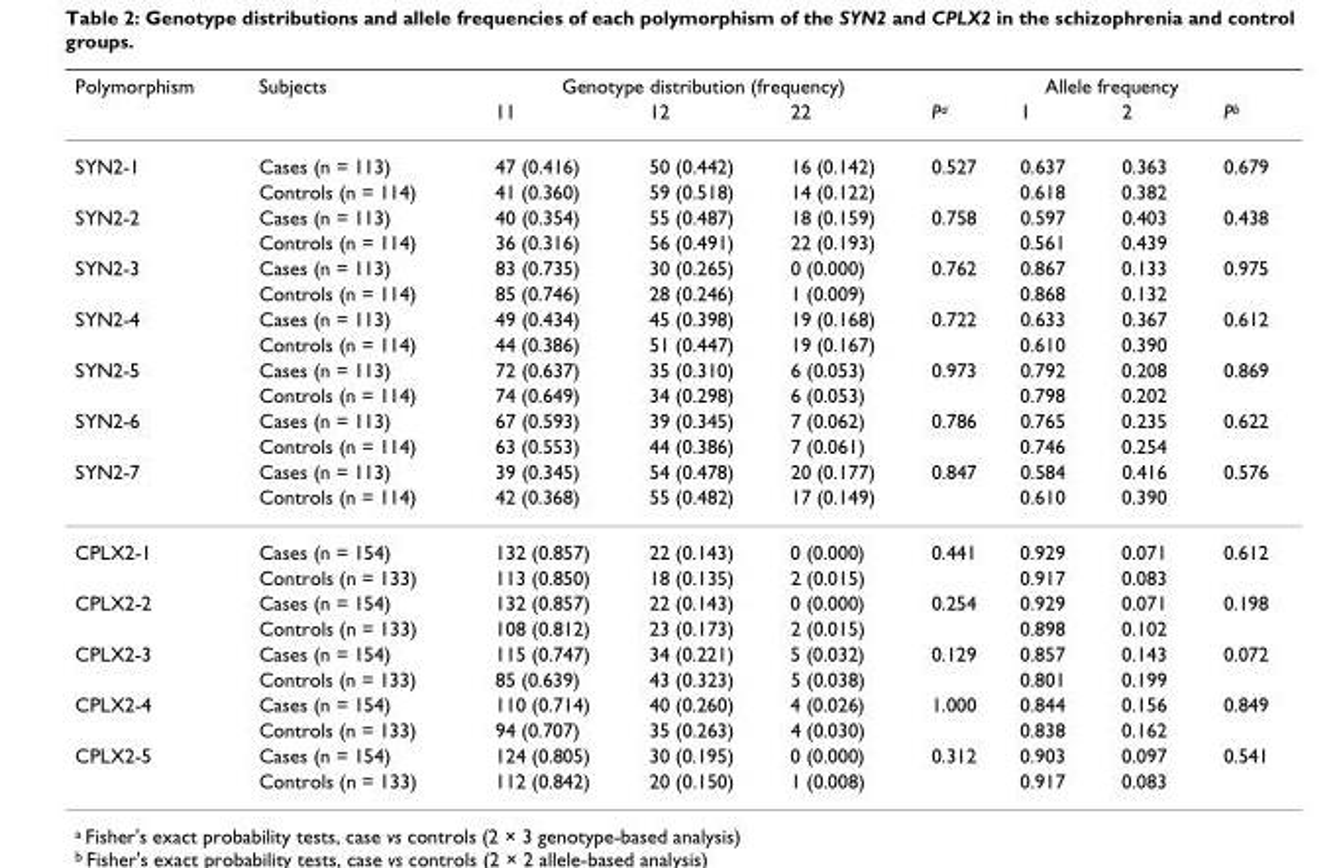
<table><thead><tr><td rowspan="2">Polymorphism</td><td rowspan="2">Subjects</td><td colspan="3">Genotype distribution (frequency)</td><td rowspan="2">P<sup>a</sup></td><td colspan="2">Allele frequency</td><td rowspan="2">P<sup>b</sup></td></tr><tr><td>11</td><td>12</td><td>22</td><td>1</td><td>2</td></tr></thead><tbody><tr><td rowspan="2">SYN2-1</td><td>Cases (n = 113)</td><td>47 (0.416)</td><td>50 (0.442)</td><td>16 (0.142)</td><td>0.527</td><td>0.637</td><td>0.363</td><td>0.679</td></tr><tr><td>Controls (n = 114)</td><td>41 (0.360)</td><td>59 (0.518)</td><td>14 (0.122)</td><td></td><td>0.618</td><td>0.382</td><td></td></tr><tr><td rowspan="2">SYN2-2</td><td>Cases (n = 113)</td><td>40 (0.354)</td><td>55 (0.487)</td><td>18 (0.159)</td><td>0.758</td><td>0.597</td><td>0.403</td><td>0.438</td></tr><tr><td>Controls (n = 114)</td><td>36 (0.316)</td><td>56 (0.491)</td><td>22 (0.193)</td><td></td><td>0.561</td><td>0.439</td><td></td></tr><tr><td rowspan="2">SYN2-3</td><td>Cases (n = 113)</td><td>83 (0.735)</td><td>30 (0.265)</td><td>0 (0.000)</td><td>0.762</td><td>0.867</td><td>0.133</td><td>0.975</td></tr><tr><td>Controls (n = 114)</td><td>85 (0.746)</td><td>28 (0.246)</td><td>1 (0.009)</td><td></td><td>0.868</td><td>0.132</td><td></td></tr><tr><td rowspan="2">SYN2-4</td><td>Cases (n = 113)</td><td>49 (0.434)</td><td>45 (0.398)</td><td>19 (0.168)</td><td>0.722</td><td>0.633</td><td>0.367</td><td>0.612</td></tr><tr><td>Controls (n = 114)</td><td>44 (0.386)</td><td>51 (0.447)</td><td>19 (0.167)</td><td></td><td>0.610</td><td>0.390</td><td></td></tr><tr><td rowspan="2">SYN2-5</td><td>Cases (n = 113)</td><td>72 (0.637)</td><td>35 (0.310)</td><td>6 (0.053)</td><td>0.973</td><td>0.792</td><td>0.208</td><td>0.869</td></tr><tr><td>Controls (n = 114)</td><td>74 (0.649)</td><td>34 (0.298)</td><td>6 (0.053)</td><td></td><td>0.798</td><td>0.202</td><td></td></tr><tr><td rowspan="2">SYN2-6</td><td>Cases (n = 113)</td><td>67 (0.593)</td><td>39 (0.345)</td><td>7 (0.062)</td><td>0.786</td><td>0.765</td><td>0.235</td><td>0.622</td></tr><tr><td>Controls (n = 114)</td><td>63 (0.553)</td><td>44 (0.386)</td><td>7 (0.061)</td><td></td><td>0.746</td><td>0.254</td><td></td></tr><tr><td rowspan="2">SYN2-7</td><td>Cases (n = 113)</td><td>39 (0.345)</td><td>54 (0.478)</td><td>20 (0.177)</td><td>0.847</td><td>0.584</td><td>0.416</td><td>0.576</td></tr><tr><td>Controls (n = 114)</td><td>42 (0.368)</td><td>55 (0.482)</td><td>17 (0.149)</td><td></td><td>0.610</td><td>0.390</td><td></td></tr><tr><td rowspan="2">CPLX2-1</td><td>Cases (n = 154)</td><td>132 (0.857)</td><td>22 (0.143)</td><td>0 (0.000)</td><td>0.441</td><td>0.929</td><td>0.071</td><td>0.612</td></tr><tr><td>Controls (n = 133)</td><td>113 (0.850)</td><td>18 (0.135)</td><td>2 (0.015)</td><td></td><td>0.917</td><td>0.083</td><td></td></tr><tr><td rowspan="2">CPLX2-2</td><td>Cases (n = 154)</td><td>132 (0.857)</td><td>22 (0.143)</td><td>0 (0.000)</td><td>0.254</td><td>0.929</td><td>0.071</td><td>0.198</td></tr><tr><td>Controls (n = 133)</td><td>108 (0.812)</td><td>23 (0.173)</td><td>2 (0.015)</td><td></td><td>0.898</td><td>0.102</td><td></td></tr><tr><td rowspan="2">CPLX2-3</td><td>Cases (n = 154)</td><td>115 (0.747)</td><td>34 (0.221)</td><td>5 (0.032)</td><td>0.129</td><td>0.857</td><td>0.143</td><td>0.072</td></tr><tr><td>Controls (n = 133)</td><td>85 (0.639)</td><td>43 (0.323)</td><td>5 (0.038)</td><td></td><td>0.801</td><td>0.199</td><td></td></tr><tr><td rowspan="2">CPLX2-4</td><td>Cases (n = 154)</td><td>110 (0.714)</td><td>40 (0.260)</td><td>4 (0.026)</td><td>1.000</td><td>0.844</td><td>0.156</td><td>0.849</td></tr><tr><td>Controls (n = 133)</td><td>94 (0.707)</td><td>35 (0.263)</td><td>4 (0.030)</td><td></td><td>0.838</td><td>0.162</td><td></td></tr><tr><td rowspan="2">CPLX2-5</td><td>Cases (n = 154)</td><td>124 (0.805)</td><td>30 (0.195)</td><td>0 (0.000)</td><td>0.312</td><td>0.903</td><td>0.097</td><td>0.541</td></tr><tr><td>Controls (n = 133)</td><td>112 (0.842)</td><td>20 (0.150)</td><td>1 (0.008)</td><td></td><td>0.917</td><td>0.083</td><td></td></tr></tbody></table>